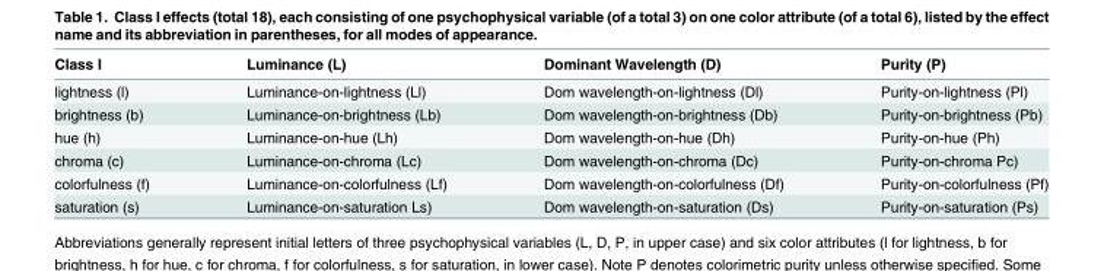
<table><thead><tr><td>Class I</td><td>Luminance (L)</td><td>Dominant Wavelength (D)</td><td>Purity (P)</td></tr></thead><tbody><tr><td>lightness (l)</td><td>Luminance-on-lightness (Ll)</td><td>Dom wavelength-on-lightness (Dl)</td><td>Purity-on-lightness (Pl)</td></tr><tr><td>brightness (b)</td><td>Luminance-on-brightness (Lb)</td><td>Dom wavelength-on-brightness (Db)</td><td>Purity-on-brightness (Pb)</td></tr><tr><td>hue (h)</td><td>Luminance-on-hue (Lh)</td><td>Dom wavelength-on-hue (Dh)</td><td>Purity-on-hue (Ph)</td></tr><tr><td>chroma (c)</td><td>Luminance-on-chroma (Lc)</td><td>Dom wavelength-on-chroma (Dc)</td><td>Purity-on-chroma Pc)</td></tr><tr><td>colorfulness (f)</td><td>Luminance-on-colorfulness (Lf)</td><td>Dom wavelength-on-colorfulness (Df)</td><td>Purity-on-colorfulness (Pf)</td></tr><tr><td>saturation (s)</td><td>Luminance-on-saturation Ls)</td><td>Dom wavelength-on-saturation (Ds)</td><td>Purity-on-saturation (Ps)</td></tr></tbody></table>